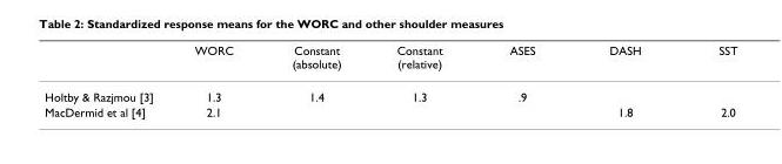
<table><thead><tr><td></td><td>WORC</td><td>Constant (absolute)</td><td>Constant (relative)</td><td>ASES</td><td>DASH</td><td>SST</td></tr></thead><tbody><tr><td>Holtby &amp; Razjmou [3]</td><td>1.3</td><td>1.4</td><td>1.3</td><td>.9</td><td></td><td></td></tr><tr><td>MacDermid et al [4]</td><td>2.1</td><td></td><td></td><td></td><td>1.8</td><td>2.0</td></tr></tbody></table>